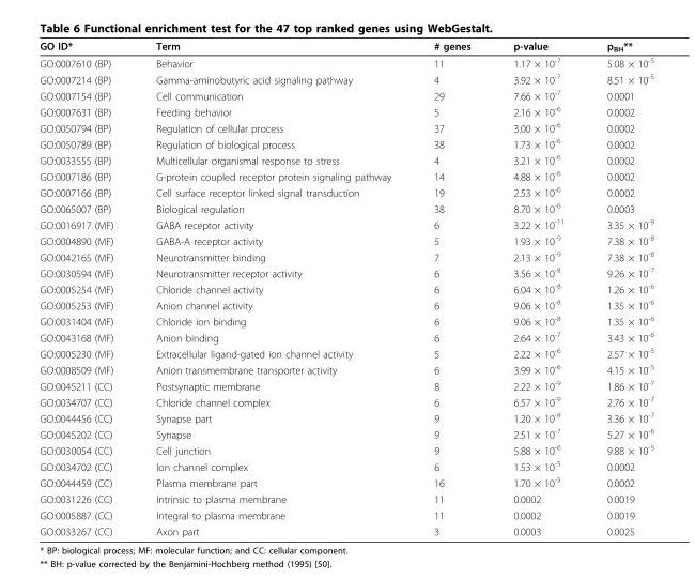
<table><thead><tr><td>GO ID*</td><td>Term</td><td># genes</td><td>p-value</td><td>p<sub>BH</sub>**</td></tr></thead><tbody><tr><td>GO:0007610 (BP)</td><td>Behavior</td><td>11</td><td>1.17 × 10<sup>-7</sup></td><td>5.08 × 10<sup>-5</sup></td></tr><tr><td>GO:0007214 (BP)</td><td>Gamma-aminobutyric acid signaling pathway</td><td>4</td><td>3.92 × 10<sup>-7</sup></td><td>8.51 × 10<sup>-5</sup></td></tr><tr><td>GO:0007154 (BP)</td><td>Cell communication</td><td>29</td><td>7.66 × 10<sup>-7</sup></td><td>0.0001</td></tr><tr><td>GO:0007631 (BP)</td><td>Feeding behavior</td><td>5</td><td>2.16 × 10<sup>-6</sup></td><td>0.0002</td></tr><tr><td>GO:0050794 (BP)</td><td>Regulation of cellular process</td><td>37</td><td>3.00 × 10<sup>-6</sup></td><td>0.0002</td></tr><tr><td>GO:0050789 (BP)</td><td>Regulation of biological process</td><td>38</td><td>1.73 × 10<sup>-6</sup></td><td>0.0002</td></tr><tr><td>GO:0033555 (BP)</td><td>Multicellular organismal response to stress</td><td>4</td><td>3.21 × 10<sup>-6</sup></td><td>0.0002</td></tr><tr><td>GO:0007186 (BP)</td><td>G-protein coupled receptor protein signaling pathway</td><td>14</td><td>4.88 × 10<sup>-6</sup></td><td>0.0002</td></tr><tr><td>GO:0007166 (BP)</td><td>Cell surface receptor linked signal transduction</td><td>19</td><td>2.53 × 10<sup>-6</sup></td><td>0.0002</td></tr><tr><td>GO:0065007 (BP)</td><td>Biological regulation</td><td>38</td><td>8.70 × 10<sup>-6</sup></td><td>0.0003</td></tr><tr><td>GO:0016917 (MF)</td><td>GABA receptor activity</td><td>6</td><td>3.22 × 10<sup>-11</sup></td><td>3.35 × 10<sup>-9</sup></td></tr><tr><td>GO:0004890 (MF)</td><td>GABA-A receptor activity</td><td>5</td><td>1.93 × 10<sup>-9</sup></td><td>7.38 × 10<sup>-8</sup></td></tr><tr><td>GO:0042165 (MF)</td><td>Neurotransmitter binding</td><td>7</td><td>2.13 × 10<sup>-9</sup></td><td>7.38 × 10<sup>-8</sup></td></tr><tr><td>GO:0030594 (MF)</td><td>Neurotransmitter receptor activity</td><td>6</td><td>3.56 × 10<sup>-8</sup></td><td>9.26 × 10<sup>-7</sup></td></tr><tr><td>GO:0005254 (MF)</td><td>Chloride channel activity</td><td>6</td><td>6.04 × 10<sup>-8</sup></td><td>1.26 × 10<sup>-6</sup></td></tr><tr><td>GO:0005253 (MF)</td><td>Anion channel activity</td><td>6</td><td>9.06 × 10<sup>-8</sup></td><td>1.35 × 10<sup>-6</sup></td></tr><tr><td>GO:0031404 (MF)</td><td>Chloride ion binding</td><td>6</td><td>9.06 × 10<sup>-8</sup></td><td>1.35 × 10<sup>-6</sup></td></tr><tr><td>GO:0043168 (MF)</td><td>Anion binding</td><td>6</td><td>2.64 × 10<sup>-7</sup></td><td>3.43 × 10<sup>-6</sup></td></tr><tr><td>GO:0005230 (MF)</td><td>Extracellular ligand-gated ion channel activity</td><td>5</td><td>2.22 × 10<sup>-6</sup></td><td>2.57 × 10<sup>-5</sup></td></tr><tr><td>GO:0008509 (MF)</td><td>Anion transmembrane transporter activity</td><td>6</td><td>3.99 × 10<sup>-6</sup></td><td>4.15 × 10<sup>-5</sup></td></tr><tr><td>GO:0045211 (CC)</td><td>Postsynaptic membrane</td><td>8</td><td>2.22 × 10<sup>-9</sup></td><td>1.86 × 10<sup>-7</sup></td></tr><tr><td>GO:0034707 (CC)</td><td>Chloride channel complex</td><td>6</td><td>6.57 × 10<sup>-9</sup></td><td>2.76 × 10<sup>-7</sup></td></tr><tr><td>GO:0044456 (CC)</td><td>Synapse part</td><td>9</td><td>1.20 × 10<sup>-8</sup></td><td>3.36 × 10<sup>-7</sup></td></tr><tr><td>GO:0045202 (CC)</td><td>Synapse</td><td>9</td><td>2.51 × 10<sup>-7</sup></td><td>5.27 × 10<sup>-6</sup></td></tr><tr><td>GO:0030054 (CC)</td><td>Cell junction</td><td>9</td><td>5.88 × 10<sup>-6</sup></td><td>9.88 × 10<sup>-5</sup></td></tr><tr><td>GO:0034702 (CC)</td><td>Ion channel complex</td><td>6</td><td>1.53 × 10<sup>-5</sup></td><td>0.0002</td></tr><tr><td>GO:0044459 (CC)</td><td>Plasma membrane part</td><td>16</td><td>1.70 × 10<sup>-5</sup></td><td>0.0002</td></tr><tr><td>GO:0031226 (CC)</td><td>Intrinsic to plasma membrane</td><td>11</td><td>0.0002</td><td>0.0019</td></tr><tr><td>GO:0005887 (CC)</td><td>Integral to plasma membrane</td><td>11</td><td>0.0002</td><td>0.0019</td></tr><tr><td>GO:0033267 (CC)</td><td>Axon part</td><td>3</td><td>0.0003</td><td>0.0025</td></tr></tbody></table>